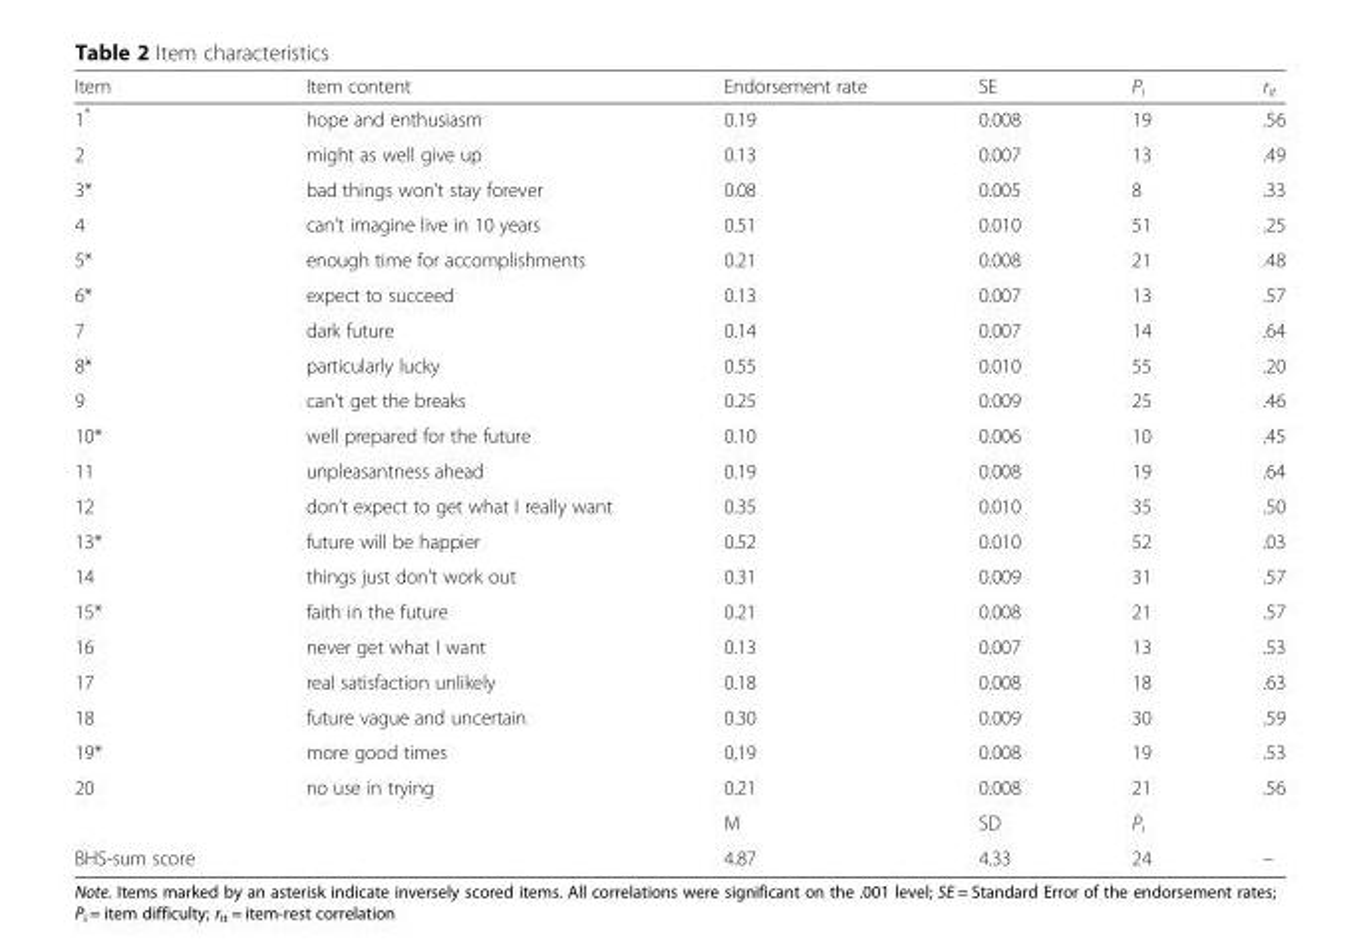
<table><thead><tr><td>Item</td><td>Item content</td><td>Endorsement rate</td><td>SE</td><td>P<sub>i</sub></td><td>r<sub>it</sub></td></tr></thead><tbody><tr><td>1*</td><td>hope and enthusiasm</td><td>0.19</td><td>0.008</td><td>19</td><td>.56</td></tr><tr><td>2</td><td>might as well give up</td><td>0.13</td><td>0.007</td><td>13</td><td>.49</td></tr><tr><td>3*</td><td>bad things won’t stay forever</td><td>0.08</td><td>0.005</td><td>8</td><td>.33</td></tr><tr><td>4</td><td>can’t imagine live in 10 years</td><td>0.51</td><td>0.010</td><td>51</td><td>.25</td></tr><tr><td>5*</td><td>enough time for accomplishments</td><td>0.21</td><td>0.008</td><td>21</td><td>.48</td></tr><tr><td>6*</td><td>expect to succeed</td><td>0.13</td><td>0.007</td><td>13</td><td>.57</td></tr><tr><td>7</td><td>dark future</td><td>0.14</td><td>0.007</td><td>14</td><td>.64</td></tr><tr><td>8*</td><td>particularly lucky</td><td>0.55</td><td>0.010</td><td>55</td><td>.20</td></tr><tr><td>9</td><td>can’t get the breaks</td><td>0.25</td><td>0.009</td><td>25</td><td>.46</td></tr><tr><td>10*</td><td>well prepared for the future</td><td>0.10</td><td>0.006</td><td>10</td><td>.45</td></tr><tr><td>11</td><td>unpleasantness ahead</td><td>0.19</td><td>0.008</td><td>19</td><td>.64</td></tr><tr><td>12</td><td>don’t expect to get what I really want</td><td>0.35</td><td>0.010</td><td>35</td><td>.50</td></tr><tr><td>13*</td><td>future will be happier</td><td>0.52</td><td>0.010</td><td>52</td><td>.03</td></tr><tr><td>14</td><td>things just don’t work out</td><td>0.31</td><td>0.009</td><td>31</td><td>.57</td></tr><tr><td>15*</td><td>faith in the future</td><td>0.21</td><td>0.008</td><td>21</td><td>.57</td></tr><tr><td>16</td><td>never get what I want</td><td>0.13</td><td>0.007</td><td>13</td><td>.53</td></tr><tr><td>17</td><td>real satisfaction unlikely</td><td>0.18</td><td>0.008</td><td>18</td><td>.63</td></tr><tr><td>18</td><td>future vague and uncertain</td><td>0.30</td><td>0.009</td><td>30</td><td>.59</td></tr><tr><td>19*</td><td>more good times</td><td>0,19</td><td>0.008</td><td>19</td><td>.53</td></tr><tr><td rowspan="2">20</td><td>no use in trying</td><td>0.21</td><td>0.008</td><td>21</td><td>.56</td></tr><tr><td></td><td>M</td><td>SD</td><td>P<sub>i</sub></td><td></td></tr><tr><td>BHS-sum score</td><td></td><td>4.87</td><td>4.33</td><td>24</td><td>–</td></tr></tbody></table>